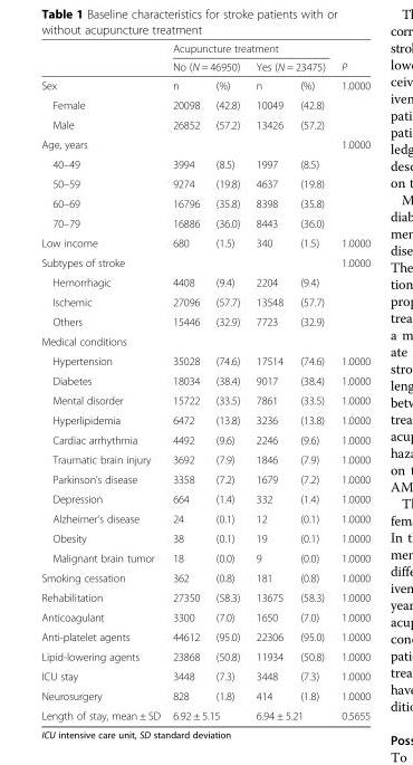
<table><thead><tr><td rowspan="3">Sex</td><td colspan="4">Acupuncture treatment</td><td rowspan="3">P 1.0000</td></tr><tr><td colspan="2">No (N = 46950)</td><td colspan="2">Yes (N = 23475)</td></tr><tr><td>n</td><td>(%)</td><td>n</td><td>(%)</td></tr></thead><tbody><tr><td>Female</td><td>20098</td><td>(42.8)</td><td>10049</td><td>(42.8)</td><td></td></tr><tr><td>Male</td><td>26852</td><td>(57.2)</td><td>13426</td><td>(57.2)</td><td></td></tr><tr><td>Age, years</td><td></td><td></td><td></td><td></td><td>1.0000</td></tr><tr><td>40–49</td><td>3994</td><td>(8.5)</td><td>1997</td><td>(8.5)</td><td></td></tr><tr><td>50–59</td><td>9274</td><td>(19.8)</td><td>4637</td><td>(19.8)</td><td></td></tr><tr><td>60–69</td><td>16796</td><td>(35.8)</td><td>8398</td><td>(35.8)</td><td></td></tr><tr><td>70–79</td><td>16886</td><td>(36.0)</td><td>8443</td><td>(36.0)</td><td></td></tr><tr><td>Low income</td><td>680</td><td>(1.5)</td><td>340</td><td>(1.5)</td><td>1.0000</td></tr><tr><td>Subtypes of stroke</td><td></td><td></td><td></td><td></td><td>1.0000</td></tr><tr><td>Hemorrhagic</td><td>4408</td><td>(9.4)</td><td>2204</td><td>(9.4)</td><td></td></tr><tr><td>Ischemic</td><td>27096</td><td>(57.7)</td><td>13548</td><td>(57.7)</td><td></td></tr><tr><td>Others</td><td>15446</td><td>(32.9)</td><td>7723</td><td>(32.9)</td><td></td></tr><tr><td colspan="6">Medical conditions</td></tr><tr><td>Hypertension</td><td>35028</td><td>(74.6)</td><td>17514</td><td>(74.6)</td><td>1.0000</td></tr><tr><td>Diabetes</td><td>18034</td><td>(38.4)</td><td>9017</td><td>(38.4)</td><td>1.0000</td></tr><tr><td>Mental disorder</td><td>15722</td><td>(33.5)</td><td>7861</td><td>(33.5)</td><td>1.0000</td></tr><tr><td>Hyperlipidemia</td><td>6472</td><td>(13.8)</td><td>3236</td><td>(13.8)</td><td>1.0000</td></tr><tr><td>Cardiac arrhythmia</td><td>4492</td><td>(9.6)</td><td>2246</td><td>(9.6)</td><td>1.0000</td></tr><tr><td>Traumatic brain injury</td><td>3692</td><td>(7.9)</td><td>1846</td><td>(7.9)</td><td>1.0000</td></tr><tr><td>Parkinson’s disease</td><td>3358</td><td>(7.2)</td><td>1679</td><td>(7.2)</td><td>1.0000</td></tr><tr><td>Depression</td><td>664</td><td>(1.4)</td><td>332</td><td>(1.4)</td><td>1.0000</td></tr><tr><td>Alzheimer’s disease</td><td>24</td><td>(0.1)</td><td>12</td><td>(0.1)</td><td>1.0000</td></tr><tr><td>Obesity</td><td>38</td><td>(0.1)</td><td>19</td><td>(0.1)</td><td>1.0000</td></tr><tr><td>Malignant brain tumor</td><td>18</td><td>(0.0)</td><td>9</td><td>(0.0)</td><td>1.0000</td></tr><tr><td>Smoking cessation</td><td>362</td><td>(0.8)</td><td>181</td><td>(0.8)</td><td>1.0000</td></tr><tr><td>Rehabilitation</td><td>27350</td><td>(58.3)</td><td>13675</td><td>(58.3)</td><td>1.0000</td></tr><tr><td>Anticoagulant</td><td>3300</td><td>(7.0)</td><td>1650</td><td>(7.0)</td><td>1.0000</td></tr><tr><td>Anti-platelet agents</td><td>44612</td><td>(95.0)</td><td>22306</td><td>(95.0)</td><td>1.0000</td></tr><tr><td>Lipid-lowering agents</td><td>23868</td><td>(50.8)</td><td>11934</td><td>(50.8)</td><td>1.0000</td></tr><tr><td>ICU stay</td><td>3448</td><td>(7.3)</td><td>3448</td><td>(7.3)</td><td>1.0000</td></tr><tr><td>Neurosurgery</td><td>828</td><td>(1.8)</td><td>414</td><td>(1.8)</td><td>1.0000</td></tr><tr><td>Length of stay, mean ± SD</td><td colspan="2">6.92 ± 5.15</td><td colspan="2">6.94 ± 5.21</td><td>0.5655</td></tr></tbody></table>